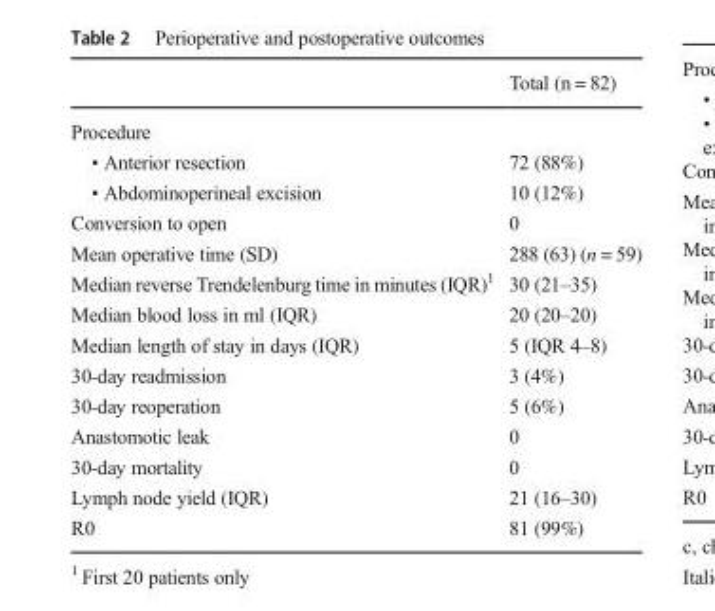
<table><thead><tr><td></td><td>Total (n = 82)</td></tr></thead><tbody><tr><td colspan="2">Procedure</td></tr><tr><td>• Anterior resection</td><td>72 (88%)</td></tr><tr><td>• Abdominoperineal excision</td><td>10 (12%)</td></tr><tr><td>Conversion to open</td><td>0</td></tr><tr><td>Mean operative time (SD)</td><td>288 (63) (n = 59)</td></tr><tr><td>Median reverse Trendelenburg time in minutes (IQR)<sup>1</sup></td><td>30 (21–35)</td></tr><tr><td>Median blood loss in ml (IQR)</td><td>20 (20–20)</td></tr><tr><td>Median length of stay in days (IQR)</td><td>5 (IQR 4–8)</td></tr><tr><td>30-day readmission</td><td>3 (4%)</td></tr><tr><td>30-day reoperation</td><td>5 (6%)</td></tr><tr><td>Anastomotic leak</td><td>0</td></tr><tr><td>30-day mortality</td><td>0</td></tr><tr><td>Lymph node yield (IQR)</td><td>21 (16–30)</td></tr><tr><td>R0</td><td>81 (99%)</td></tr></tbody></table>